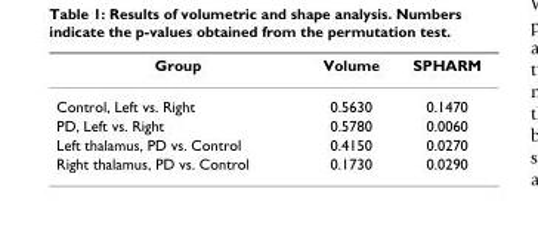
<table><thead><tr><td>Group</td><td>Volume</td><td>SPHARM</td></tr></thead><tbody><tr><td>Control, Left vs. Right</td><td>0.5630</td><td>0.1470</td></tr><tr><td>PD, Left vs. Right</td><td>0.5780</td><td>0.0060</td></tr><tr><td>Left thalamus, PD vs. Control</td><td>0.4150</td><td>0.0270</td></tr><tr><td>Right thalamus, PD vs. Control</td><td>0.1730</td><td>0.0290</td></tr></tbody></table>